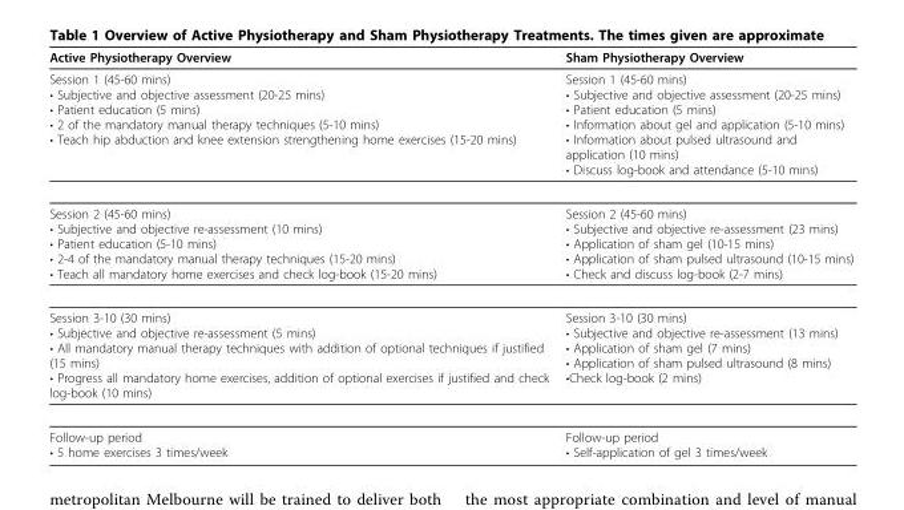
<table><thead><tr><td>Active Physiotherapy Overview</td><td>Sham Physiotherapy Overview</td></tr></thead><tbody><tr><td>Session 1 (45-60 mins) • Subjective and objective assessment (20-25 mins) • Patient education (5 mins) • 2 of the mandatory manual therapy techniques (5-10 mins) • Teach hip abduction and knee extension strengthening home exercises (15-20 mins)</td><td>Session 1 (45-60 mins) • Subjective and objective assessment (20-25 mins) • Patient education (5 mins) • Information about gel and application (5-10 mins) • Information about pulsed ultrasound and application (10 mins) • Discuss log-book and attendance (5-10 mins)</td></tr><tr><td>Session 2 (45-60 mins) • Subjective and objective re-assessment (10 mins) • Patient education (5-10 mins) • 2-4 of the mandatory manual therapy techniques (15-20 mins) • Teach all mandatory home exercises and check log-book (15-20 mins)</td><td>Session 2 (45-60 mins) • Subjective and objective re-assessment (23 mins) • Application of sham gel (10-15 mins) • Application of sham pulsed ultrasound (10-15 mins) • Check and discuss log-book (2-7 mins)</td></tr><tr><td>Session 3-10 (30 mins) • Subjective and objective re-assessment (5 mins) • All mandatory manual therapy techniques with addition of optional techniques if justified (15 mins) • Progress all mandatory home exercises, addition of optional exercises if justified and check log-book (10 mins)</td><td>Session 3-10 (30 mins) • Subjective and objective re-assessment (13 mins) • Application of sham gel (7 mins) • Application of sham pulsed ultrasound (8 mins) •Check log-book (2 mins)</td></tr><tr><td>Follow-up period • 5 home exercises 3 times/week</td><td>Follow-up period • Self-application of gel 3 times/week</td></tr></tbody></table>